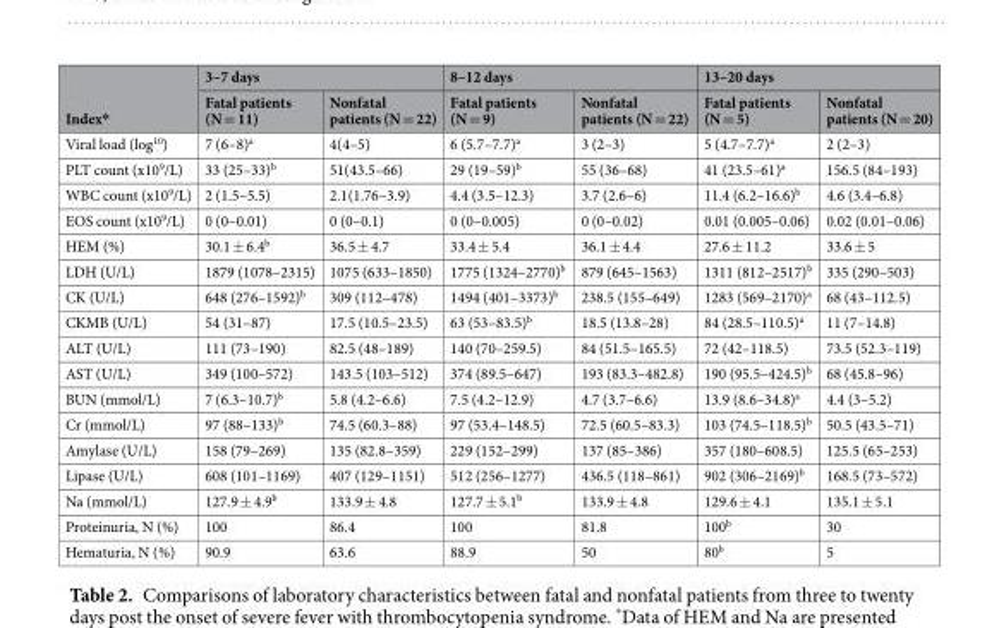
<table><thead><tr><td rowspan="2">Index*</td><td colspan="2">3–7 days</td><td colspan="2">8–12 days</td><td colspan="2">13–20 days</td></tr><tr><td>Fatal patients (N = 11)</td><td>Nonfatal patients (N = 22)</td><td>Fatal patients (N = 9)</td><td>Nonfatal patients (N = 22)</td><td>Fatal patients (N = 5)</td><td>Nonfatal patients (N = 20)</td></tr></thead><tbody><tr><td>Viral load (log<sup>10</sup>)</td><td>7 (6–8)<sup>a</sup></td><td>4(4–5)</td><td>6 (5.7–7.7)<sup>a</sup></td><td>3 (2–3)</td><td>5 (4.7–7.7)<sup>a</sup></td><td>2 (2–3)</td></tr><tr><td>PLT count (x10<sup>9</sup>/L)</td><td>33 (25–33)<sup>b</sup></td><td>51(43.5–66)</td><td>29 (19–59)<sup>b</sup></td><td>55 (36–68)</td><td>41 (23.5–61)<sup>a</sup></td><td>156.5 (84–193)</td></tr><tr><td>WBC count (x10<sup>9</sup>/L)</td><td>2 (1.5–5.5)</td><td>2.1(1.76–3.9)</td><td>4.4 (3.5–12.3)</td><td>3.7 (2.6–6)</td><td>11.4 (6.2–16.6)<sup>b</sup></td><td>4.6 (3.4–6.8)</td></tr><tr><td>EOS count (x10<sup>9</sup>/L)</td><td>0 (0–0.01)</td><td>0 (0–0.1)</td><td>0 (0–0.005)</td><td>0 (0–0.02)</td><td>0.01 (0.005–0.06)</td><td>0.02 (0.01–0.06)</td></tr><tr><td>HEM (%)</td><td>30.1 ± 6.4<sup>b</sup></td><td>36.5 ± 4.7</td><td>33.4 ± 5.4</td><td>36.1 ± 4.4</td><td>27.6 ± 11.2</td><td>33.6 ± 5</td></tr><tr><td>LDH (U/L)</td><td>1879 (1078–2315)</td><td>1075 (633–1850)</td><td>1775 (1324–2770)<sup>b</sup></td><td>879 (645–1563)</td><td>1311 (812–2517)<sup>b</sup></td><td>335 (290–503)</td></tr><tr><td>CK (U/L)</td><td>648 (276–1592)<sup>b</sup></td><td>309 (112–478)</td><td>1494 (401–3373)<sup>b</sup></td><td>238.5 (155–649)</td><td>1283 (569–2170)<sup>a</sup></td><td>68 (43–112.5)</td></tr><tr><td>CKMB (U/L)</td><td>54 (31–87)</td><td>17.5 (10.5–23.5)</td><td>63 (53–83.5)<sup>b</sup></td><td>18.5 (13.8–28)</td><td>84 (28.5–110.5)<sup>a</sup></td><td>11 (7–14.8)</td></tr><tr><td>ALT (U/L)</td><td>111 (73–190)</td><td>82.5 (48–189)</td><td>140 (70–259.5)</td><td>84 (51.5–165.5)</td><td>72 (42–118.5)</td><td>73.5 (52.3–119)</td></tr><tr><td>AST (U/L)</td><td>349 (100–572)</td><td>143.5 (103–512)</td><td>374 (89.5–647)</td><td>193 (83.3–482.8)</td><td>190 (95.5–424.5)<sup>b</sup></td><td>68 (45.8–96)</td></tr><tr><td>BUN (mmol/L)</td><td>7 (6.3–10.7)<sup>b</sup></td><td>5.8 (4.2–6.6)</td><td>7.5 (4.2–12.9)</td><td>4.7 (3.7–6.6)</td><td>13.9 (8.6–34.8)<sup>a</sup></td><td>4.4 (3–5.2)</td></tr><tr><td>Cr (mmol/L)</td><td>97 (88–133)<sup>b</sup></td><td>74.5 (60.3–88)</td><td>97 (53.4–148.5)</td><td>72.5 (60.5–83.3)</td><td>103 (74.5–118.5)<sup>b</sup></td><td>50.5 (43.5–71)</td></tr><tr><td>Amylase (U/L)</td><td>158 (79–269)</td><td>135 (82.8–359)</td><td>229 (152–299)</td><td>137 (85–386)</td><td>357 (180–608.5)</td><td>125.5 (65–253)</td></tr><tr><td>Lipase (U/L)</td><td>608 (101–1169)</td><td>407 (129–1151)</td><td>512 (256–1277)</td><td>436.5 (118–861)</td><td>902 (306–2169)<sup>b</sup></td><td>168.5 (73–572)</td></tr><tr><td>Na (mmol/L)</td><td>127.9 ± 4.9<sup>b</sup></td><td>133.9 ± 4.8</td><td>127.7 ± 5.1<sup>b</sup></td><td>133.9 ± 4.8</td><td>129.6 ± 4.1</td><td>135.1 ± 5.1</td></tr><tr><td>Proteinuria, N (%)</td><td>100</td><td>86.4</td><td>100</td><td>81.8</td><td>100<sup>b</sup></td><td>30</td></tr><tr><td>Hematuria, N (%)</td><td>90.9</td><td>63.6</td><td>88.9</td><td>50</td><td>80<sup>b</sup></td><td>5</td></tr></tbody></table>